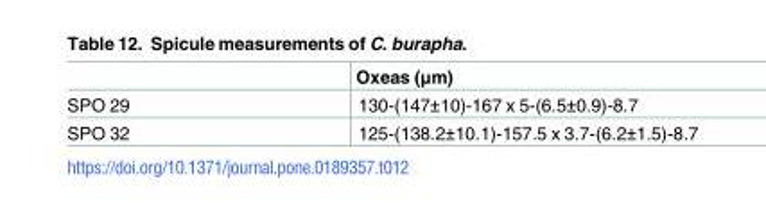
<table><thead><tr><td></td><td>Oxeas (μm)</td></tr></thead><tbody><tr><td>SPO 29</td><td>130-(147±10)-167 x 5-(6.5±0.9)-8.7</td></tr><tr><td>SPO 32</td><td>125-(138.2±10.1)-157.5 x 3.7-(6.2±1.5)-8.7</td></tr></tbody></table>